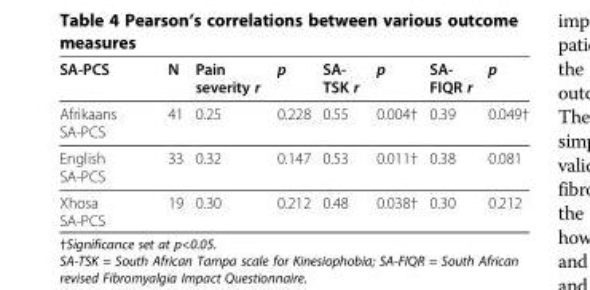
<table><thead><tr><td>SA-PCS</td><td>N</td><td>Pain severity r</td><td>p</td><td>SA- TSK r</td><td>p</td><td>SA- FIQR r</td><td>p</td></tr></thead><tbody><tr><td>Afrikaans SA-PCS</td><td>41</td><td>0.25</td><td>0.228</td><td>0.55</td><td>0.004†</td><td>0.39</td><td>0.049†</td></tr><tr><td>English SA-PCS</td><td>33</td><td>0.32</td><td>0.147</td><td>0.53</td><td>0.011†</td><td>0.38</td><td>0.081</td></tr><tr><td>Xhosa SA-PCS</td><td>19</td><td>0.30</td><td>0.212</td><td>0.48</td><td>0.038†</td><td>0.30</td><td>0.212</td></tr></tbody></table>